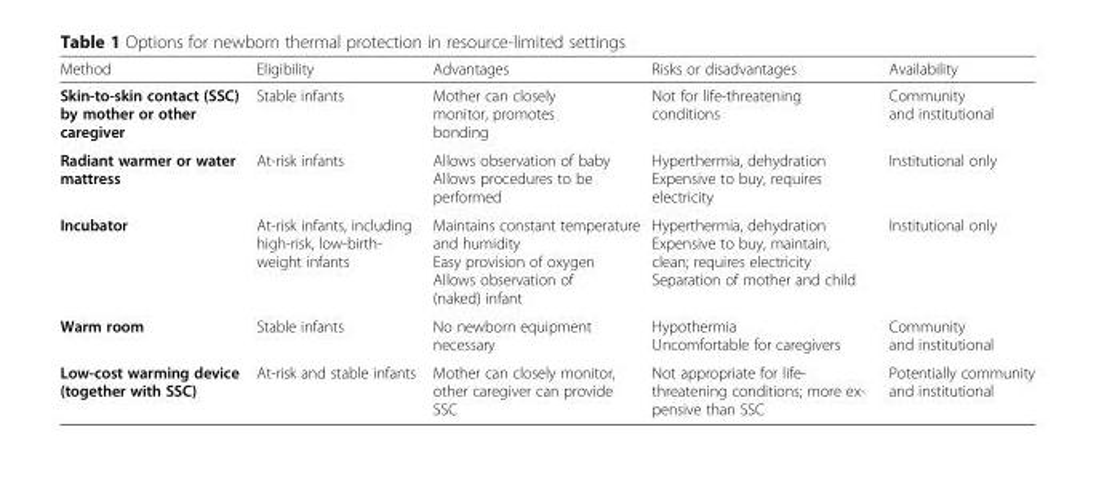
<table><thead><tr><td>Method</td><td>Eligibility</td><td>Advantages</td><td>Risks or disadvantages</td><td>Availability</td></tr></thead><tbody><tr><td>Skin-to-skin contact (SSC) by mother or other caregiver</td><td>Stable infants</td><td>Mother can closely monitor, promotes bonding</td><td>Not for life-threatening conditions</td><td>Community and institutional</td></tr><tr><td>Radiant warmer or water mattress</td><td>At-risk infants</td><td>Allows observation of baby Allows procedures to be performed</td><td>Hyperthermia, dehydration Expensive to buy, requires electricity</td><td>Institutional only</td></tr><tr><td>Incubator</td><td>At-risk infants, including high-risk, low-birth- weight infants</td><td>Maintains constant temperature and humidity Easy provision of oxygen Allows observation of (naked) infant</td><td>Hyperthermia, dehydration Expensive to buy, maintain, clean; requires electricity Separation of mother and child</td><td>Institutional only</td></tr><tr><td>Warm room</td><td>Stable infants</td><td>No newborn equipment necessary</td><td>Hypothermia Uncomfortable for caregivers</td><td>Community and institutional</td></tr><tr><td>Low-cost warming device (together with SSC)</td><td>At-risk and stable infants</td><td>Mother can closely monitor, other caregiver can provide SSC</td><td>Not appropriate for life- threatening conditions; more ex- pensive than SSC</td><td>Potentially community and institutional</td></tr></tbody></table>